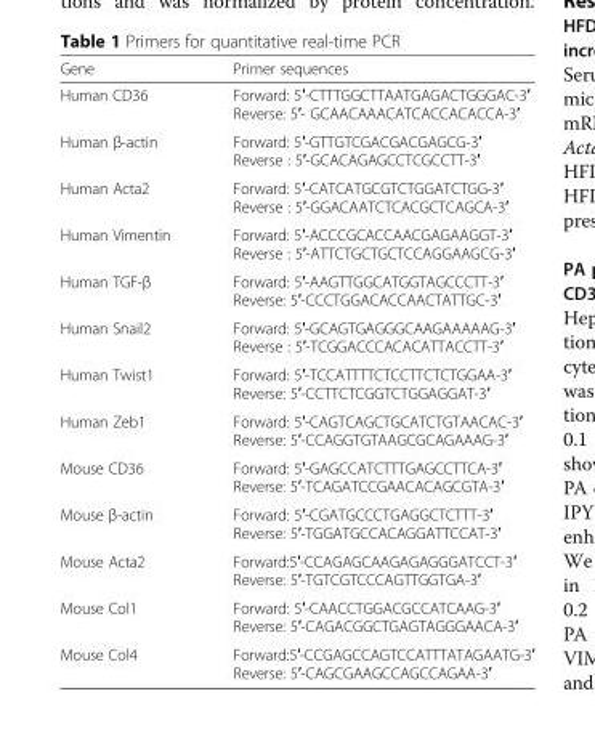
<table><thead><tr><td>Gene</td><td>Primer sequences</td></tr></thead><tbody><tr><td>Human CD36</td><td>Forward: 5′-CTTTGGCTTAATGAGACTGGGAC-3′ Reverse: 5′- GCAACAAACATCACCACACCA-3′</td></tr><tr><td>Human β-actin</td><td>Forward: 5′-GTTGTCGACGACGAGCG-3′ Reverse : 5′-GCACAGAGCCTCGCCTT-3′</td></tr><tr><td>Human Acta2</td><td>Forward: 5′-CATCATGCGTCTGGATCTGG-3′ Reverse : 5′-GGACAATCTCACGCTCAGCA-3′</td></tr><tr><td>Human Vimentin</td><td>Forward: 5′-ACCCGCACCAACGAGAAGGT-3′ Reverse : 5′-ATTCTGCTGCTCCAGGAAGCG-3′</td></tr><tr><td>Human TGF-β</td><td>Forward: 5′-AAGTTGGCATGGTAGCCCTT-3′ Reverse: 5′-CCCTGGACACCAACTATTGC-3′</td></tr><tr><td>Human Snail2</td><td>Forward: 5′-GCAGTGAGGGCAAGAAAAAG-3′ Reverse : 5′-TCGGACCCACACATTACCTT-3′</td></tr><tr><td>Human Twist1</td><td>Forward: 5′-TCCATTTTCTCCTTCTCTGGAA-3′ Reverse: 5′-CCTTCTCGGTCTGGAGGAT-3′</td></tr><tr><td>Human Zeb1</td><td>Forward: 5′-CAGTCAGCTGCATCTGTAACAC-3′ Reverse: 5′-CCAGGTGTAAGCGCAGAAAG-3′</td></tr><tr><td>Mouse CD36</td><td>Forward: 5′-GAGCCATCTTTGAGCCTTCA-3′ Reverse: 5′-TCAGATCCGAACACAGCGTA-3′</td></tr><tr><td>Mouse β-actin</td><td>Forward: 5′-CGATGCCCTGAGGCTCTTT-3′ Reverse: 5′-TGGATGCCACAGGATTCCAT-3′</td></tr><tr><td>Mouse Acta2</td><td>Forward:5′-CCAGAGCAAGAGAGGGATCCT-3′ Reverse: 5′-TGTCGTCCCAGTTGGTGA-3′</td></tr><tr><td>Mouse Col1</td><td>Forward: 5′-CAACCTGGACGCCATCAAG-3′ Reverse: 5′-CAGACGGCTGAGTAGGGAACA-3′</td></tr><tr><td>Mouse Col4</td><td>Forward:5′-CCGAGCCAGTCCATTTATAGAATG-3′ Reverse: 5′-CAGCGAAGCCAGCCAGAA-3′</td></tr></tbody></table>